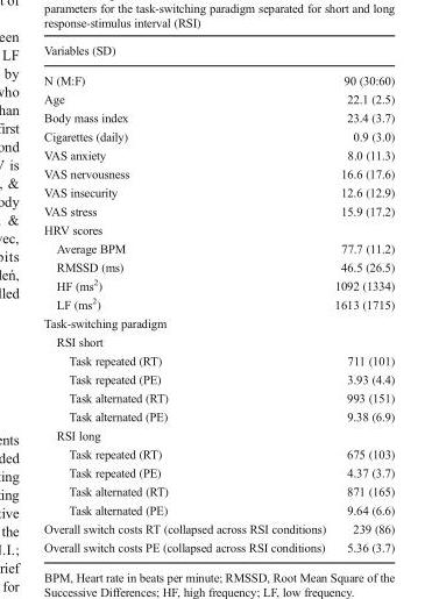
<table><thead><tr><td colspan="2">Variables (SD)</td></tr><tr><td>N (M:F)</td><td>90 (30:60)</td></tr></thead><tbody><tr><td>Age</td><td>22.1 (2.5)</td></tr><tr><td>Body mass index</td><td>23.4 (3.7)</td></tr><tr><td>Cigarettes (daily)</td><td>0.9 (3.0)</td></tr><tr><td>VAS anxiety</td><td>8.0 (11.3)</td></tr><tr><td>VAS nervousness</td><td>16.6 (17.6)</td></tr><tr><td>VAS insecurity</td><td>12.6 (12.9)</td></tr><tr><td>VAS stress</td><td>15.9 (17.2)</td></tr><tr><td colspan="2">HRV scores</td></tr><tr><td>Average BPM</td><td>77.7 (11.2)</td></tr><tr><td>RMSSD (ms)</td><td>46.5 (26.5)</td></tr><tr><td>HF (ms2)</td><td>1092 (1334)</td></tr><tr><td>LF (ms2)</td><td>1613 (1715)</td></tr><tr><td colspan="2">Task-switching paradigm</td></tr><tr><td colspan="2">RSI short</td></tr><tr><td>Task repeated (RT)</td><td>711 (101)</td></tr><tr><td>Task repeated (PE)</td><td>3.93 (4.4)</td></tr><tr><td>Task alternated (RT)</td><td>993 (151)</td></tr><tr><td>Task alternated (PE)</td><td>9.38 (6.9)</td></tr><tr><td colspan="2">RSI long</td></tr><tr><td>Task repeated (RT)</td><td>675 (103)</td></tr><tr><td>Task repeated (PE)</td><td>4.37 (3.7)</td></tr><tr><td>Task alternated (RT)</td><td>871 (165)</td></tr><tr><td>Task alternated (PE)</td><td>9.64 (6.6)</td></tr><tr><td>Overall switch costs RT (collapsed across RSI conditions)</td><td>239 (86)</td></tr><tr><td>Overall switch costs PE (collapsed across RSI conditions)</td><td>5.36 (3.7)</td></tr></tbody></table>